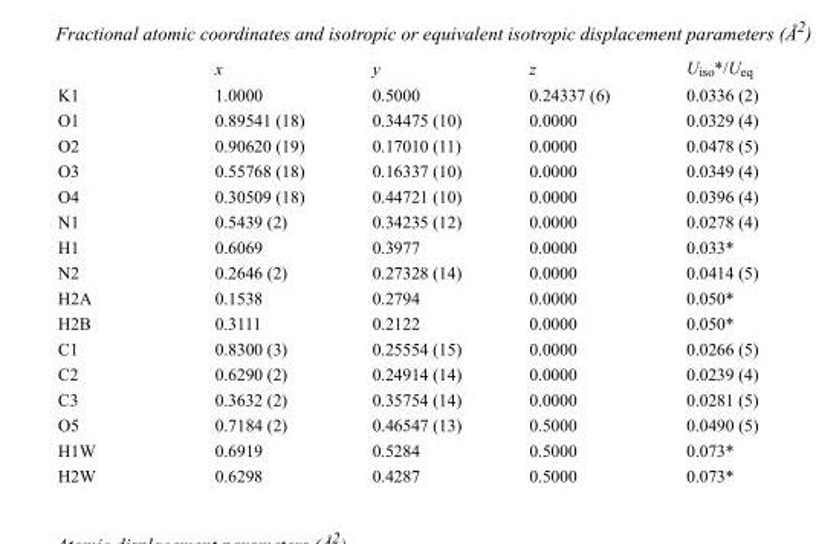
<table><thead><tr><td></td><td>x</td><td>y</td><td>z</td><td>U<sub>iso</sub>*/U<sub>eq</sub></td></tr></thead><tbody><tr><td>K1</td><td>1.0000</td><td>0.5000</td><td>0.24337 (6)</td><td>0.0336 (2)</td></tr><tr><td>O1</td><td>0.89541 (18)</td><td>0.34475 (10)</td><td>0.0000</td><td>0.0329 (4)</td></tr><tr><td>O2</td><td>0.90620 (19)</td><td>0.17010 (11)</td><td>0.0000</td><td>0.0478 (5)</td></tr><tr><td>O3</td><td>0.55768 (18)</td><td>0.16337 (10)</td><td>0.0000</td><td>0.0349 (4)</td></tr><tr><td>O4</td><td>0.30509 (18)</td><td>0.44721 (10)</td><td>0.0000</td><td>0.0396 (4)</td></tr><tr><td>N1</td><td>0.5439 (2)</td><td>0.34235 (12)</td><td>0.0000</td><td>0.0278 (4)</td></tr><tr><td>H1</td><td>0.6069</td><td>0.3977</td><td>0.0000</td><td>0.033*</td></tr><tr><td>N2</td><td>0.2646 (2)</td><td>0.27328 (14)</td><td>0.0000</td><td>0.0414 (5)</td></tr><tr><td>H2A</td><td>0.1538</td><td>0.2794</td><td>0.0000</td><td>0.050*</td></tr><tr><td>H2B</td><td>0.3111</td><td>0.2122</td><td>0.0000</td><td>0.050*</td></tr><tr><td>C1</td><td>0.8300 (3)</td><td>0.25554 (15)</td><td>0.0000</td><td>0.0266 (5)</td></tr><tr><td>C2</td><td>0.6290 (2)</td><td>0.24914 (14)</td><td>0.0000</td><td>0.0239 (4)</td></tr><tr><td>C3</td><td>0.3632 (2)</td><td>0.35754 (14)</td><td>0.0000</td><td>0.0281 (5)</td></tr><tr><td>O5</td><td>0.7184 (2)</td><td>0.46547 (13)</td><td>0.5000</td><td>0.0490 (5)</td></tr><tr><td>H1W</td><td>0.6919</td><td>0.5284</td><td>0.5000</td><td>0.073*</td></tr><tr><td>H2W</td><td>0.6298</td><td>0.4287</td><td>0.5000</td><td>0.073*</td></tr></tbody></table>